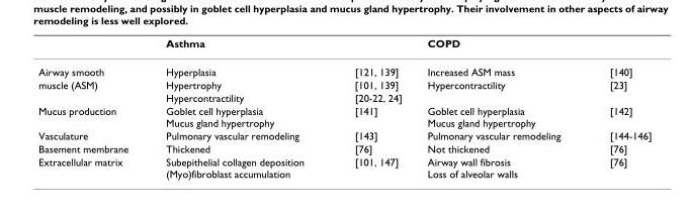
<table><thead><tr><td></td><td>Asthma</td><td></td><td>COPD</td><td></td></tr></thead><tbody><tr><td>Airway smooth</td><td>Hyperplasia</td><td>[121, 139]</td><td>Increased ASM mass</td><td>[140]</td></tr><tr><td rowspan="2">muscle (ASM)</td><td>Hypertrophy</td><td>[101, 139]</td><td>Hypercontractility</td><td>[23]</td></tr><tr><td>Hypercontractility</td><td>[20-22, 24]</td><td></td><td></td></tr><tr><td>Mucus production</td><td>Goblet cell hyperplasia Mucus gland hypertrophy</td><td>[141]</td><td>Goblet cell hyperplasia Mucus gland hypertrophy</td><td>[142]</td></tr><tr><td>Vasculature</td><td>Pulmonary vascular remodeling</td><td>[143]</td><td>Pulmonary vascular remodeling</td><td>[144-146]</td></tr><tr><td>Basement membrane</td><td>Thickened</td><td>[76]</td><td>Not thickened</td><td>[76]</td></tr><tr><td>Extracellular matrix</td><td>Subepithelial collagen deposition (Myo)fibroblast accumulation</td><td>[101, 147]</td><td>Airway wall fibrosis Loss of alveolar walls</td><td>[76]</td></tr></tbody></table>